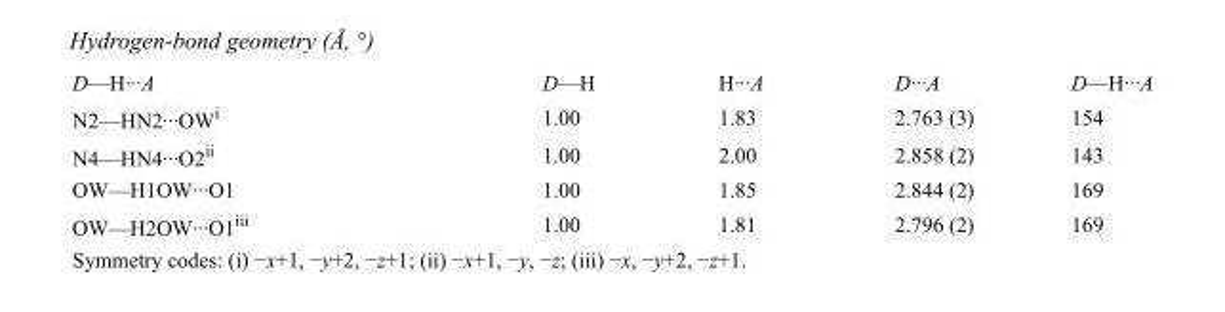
<table><tbody><tr><td>D—H···A</td><td>D—H</td><td>H···A</td><td>D···A</td><td>D—H···A</td></tr><tr><td>N2—HN2···OW<sup>i</sup></td><td>1.00</td><td>1.83</td><td>2.763 (3)</td><td>154</td></tr><tr><td>N4—HN4···O2<sup>ii</sup></td><td>1.00</td><td>2.00</td><td>2.858 (2)</td><td>143</td></tr><tr><td>OW—H1OW···O1</td><td>1.00</td><td>1.85</td><td>2.844 (2)</td><td>169</td></tr><tr><td>OW—H2OW···O1<sup>iii</sup></td><td>1.00</td><td>1.81</td><td>2.796 (2)</td><td>169</td></tr></tbody></table>